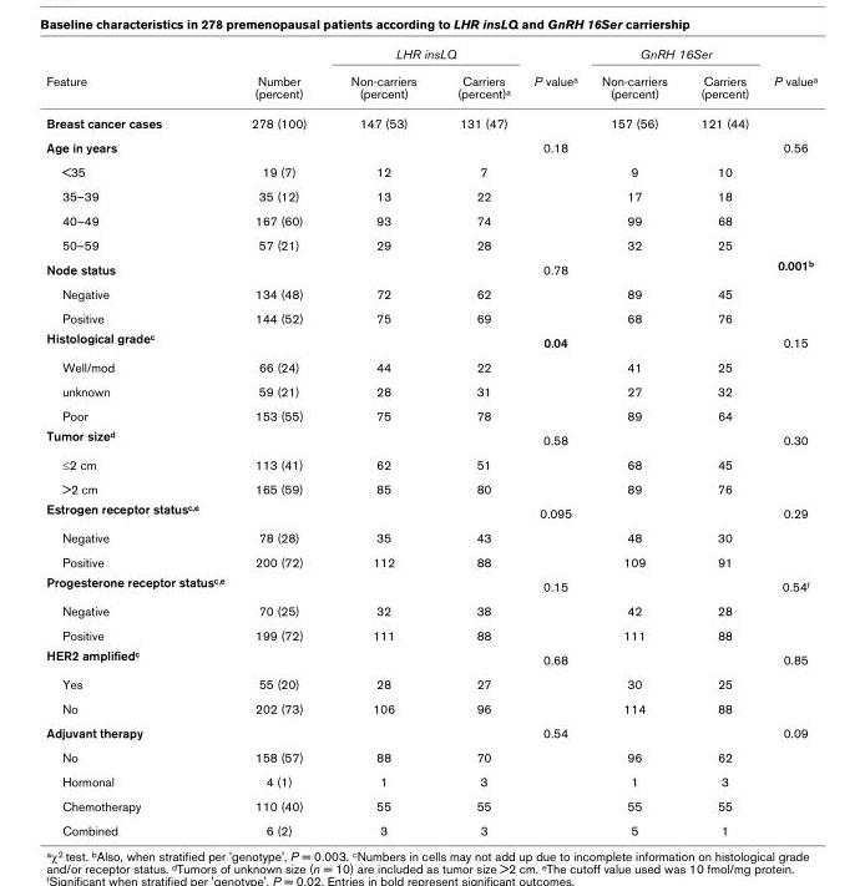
<table><thead><tr><td rowspan="2">Feature</td><td rowspan="2">Number (percent)</td><td colspan="2">LHR insLQ</td><td rowspan="2">P value<sup>a</sup></td><td colspan="2">GnRH 16Ser</td><td rowspan="2">P value<sup>a</sup></td></tr><tr><td>Non-carriers (percent)</td><td>Carriers (percent)<sup>a</sup></td><td>Non-carriers (percent)</td><td>Carriers (percent)</td></tr></thead><tbody><tr><td>Breast cancer cases</td><td>278 (100)</td><td>147 (53)</td><td>131 (47)</td><td></td><td>157 (56)</td><td>121 (44)</td><td></td></tr><tr><td>Age in years</td><td></td><td></td><td></td><td>0.18</td><td></td><td></td><td>0.56</td></tr><tr><td>&lt;35</td><td>19 (7)</td><td>12</td><td>7</td><td></td><td>9</td><td>10</td><td></td></tr><tr><td>35–39</td><td>35 (12)</td><td>13</td><td>22</td><td></td><td>17</td><td>18</td><td></td></tr><tr><td>40–49</td><td>167 (60)</td><td>93</td><td>74</td><td></td><td>99</td><td>68</td><td></td></tr><tr><td>50–59</td><td>57 (21)</td><td>29</td><td>28</td><td></td><td>32</td><td>25</td><td></td></tr><tr><td>Node status</td><td></td><td></td><td></td><td>0.78</td><td></td><td></td><td>0.001<sup>b</sup></td></tr><tr><td>Negative</td><td>134 (48)</td><td>72</td><td>62</td><td></td><td>89</td><td>45</td><td></td></tr><tr><td>Positive</td><td>144 (52)</td><td>75</td><td>69</td><td></td><td>68</td><td>76</td><td></td></tr><tr><td>Histological grade<sup>c</sup></td><td></td><td></td><td></td><td>0.04</td><td></td><td></td><td>0.15</td></tr><tr><td>Well/mod</td><td>66 (24)</td><td>44</td><td>22</td><td></td><td>41</td><td>25</td><td></td></tr><tr><td>unknown</td><td>59 (21)</td><td>28</td><td>31</td><td></td><td>27</td><td>32</td><td></td></tr><tr><td>Poor</td><td>153 (55)</td><td>75</td><td>78</td><td></td><td>89</td><td>64</td><td></td></tr><tr><td>Tumor size<sup>d</sup></td><td></td><td></td><td></td><td>0.58</td><td></td><td></td><td>0.30</td></tr><tr><td>≤2 cm</td><td>113 (41)</td><td>62</td><td>51</td><td></td><td>68</td><td>45</td><td></td></tr><tr><td>&gt;2 cm</td><td>165 (59)</td><td>85</td><td>80</td><td></td><td>89</td><td>76</td><td></td></tr><tr><td>Estrogen receptor status<sup>c,e</sup></td><td></td><td></td><td></td><td>0.095</td><td></td><td></td><td>0.29</td></tr><tr><td>Negative</td><td>78 (28)</td><td>35</td><td>43</td><td></td><td>48</td><td>30</td><td></td></tr><tr><td>Positive</td><td>200 (72)</td><td>112</td><td>88</td><td></td><td>109</td><td>91</td><td></td></tr><tr><td>Progesterone receptor status<sup>c,e</sup></td><td></td><td></td><td></td><td>0.15</td><td></td><td></td><td>0.54<sup>f</sup></td></tr><tr><td>Negative</td><td>70 (25)</td><td>32</td><td>38</td><td></td><td>42</td><td>28</td><td></td></tr><tr><td>Positive</td><td>199 (72)</td><td>111</td><td>88</td><td></td><td>111</td><td>88</td><td></td></tr><tr><td>HER2 amplified<sup>c</sup></td><td></td><td></td><td></td><td>0.68</td><td></td><td></td><td>0.85</td></tr><tr><td>Yes</td><td>55 (20)</td><td>28</td><td>27</td><td></td><td>30</td><td>25</td><td></td></tr><tr><td>No</td><td>202 (73)</td><td>106</td><td>96</td><td></td><td>114</td><td>88</td><td></td></tr><tr><td>Adjuvant therapy</td><td></td><td></td><td></td><td>0.54</td><td></td><td></td><td>0.09</td></tr><tr><td>No</td><td>158 (57)</td><td>88</td><td>70</td><td></td><td>96</td><td>62</td><td></td></tr><tr><td>Hormonal</td><td>4 (1)</td><td>1</td><td>3</td><td></td><td>1</td><td>3</td><td></td></tr><tr><td>Chemotherapy</td><td>110 (40)</td><td>55</td><td>55</td><td></td><td>55</td><td>55</td><td></td></tr><tr><td>Combined</td><td>6 (2)</td><td>3</td><td>3</td><td></td><td>5</td><td>1</td><td></td></tr></tbody></table>